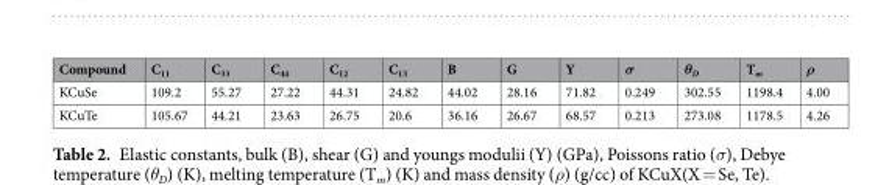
<table><thead><tr><td>Compound</td><td>C<sub>11</sub></td><td>C<sub>33</sub></td><td>C<sub>44</sub></td><td>C<sub>12</sub></td><td>C<sub>13</sub></td><td>B</td><td>G</td><td>Y</td><td>σ</td><td>θ<sub>D</sub></td><td>T<sub>m</sub></td><td>ρ</td></tr></thead><tbody><tr><td>KCuSe</td><td>109.2</td><td>55.27</td><td>27.22</td><td>44.31</td><td>24.82</td><td>44.02</td><td>28.16</td><td>71.82</td><td>0.249</td><td>302.55</td><td>1198.4</td><td>4.00</td></tr><tr><td>KCuTe</td><td>105.67</td><td>44.21</td><td>23.63</td><td>26.75</td><td>20.6</td><td>36.16</td><td>26.67</td><td>68.57</td><td>0.213</td><td>273.08</td><td>1178.5</td><td>4.26</td></tr></tbody></table>